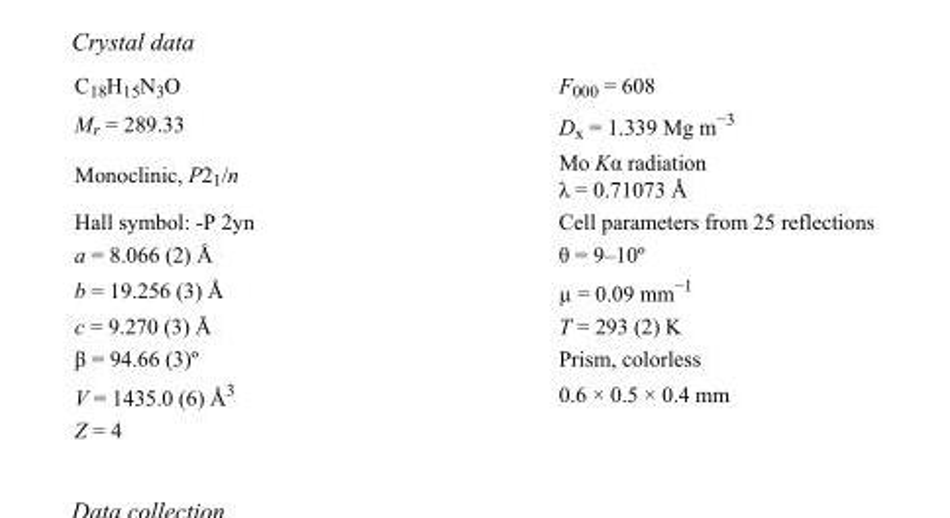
<table><tbody><tr><td>C<sub>18</sub>H<sub>15</sub>N<sub>3</sub>O</td><td>F<sub>000</sub> = 608</td></tr><tr><td>M<sub>r</sub> = 289.33</td><td>D<sub>x</sub> = 1.339 Mg m<sup>−3</sup></td></tr><tr><td>Monoclinic, P2<sub>1</sub>/n</td><td>Mo Kα radiation λ = 0.71073 Å</td></tr><tr><td>Hall symbol: -P 2yn</td><td>Cell parameters from 25 reflections</td></tr><tr><td>a = 8.066 (2) Å</td><td>θ = 9–10º</td></tr><tr><td>b = 19.256 (3) Å</td><td>µ = 0.09 mm<sup>−1</sup></td></tr><tr><td>c = 9.270 (3) Å</td><td>T = 293 (2) K</td></tr><tr><td>β = 94.66 (3)º</td><td>Prism, colorless</td></tr><tr><td>V = 1435.0 (6) Å<sup>3</sup></td><td>0.6 × 0.5 × 0.4 mm</td></tr><tr><td>Z = 4</td><td></td></tr></tbody></table>